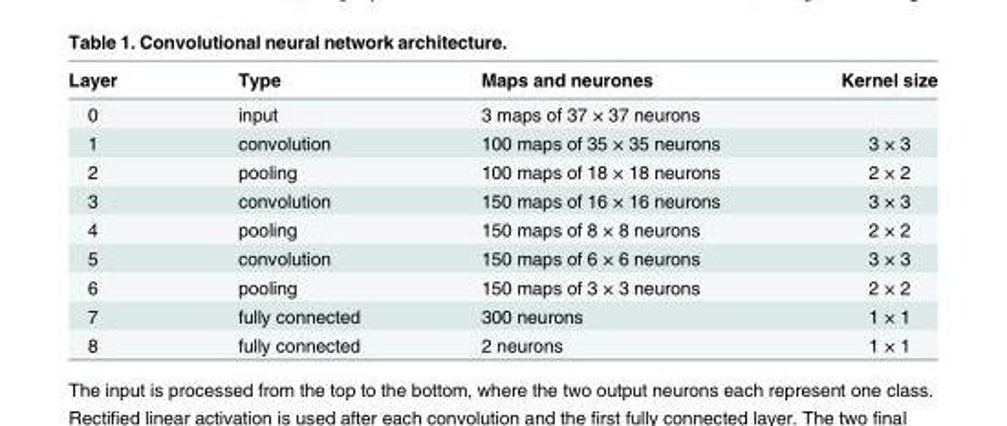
<table><thead><tr><td>Layer</td><td>Type</td><td>Maps and neurones</td><td>Kernel size</td></tr></thead><tbody><tr><td>0</td><td>input</td><td>3 maps of 37 × 37 neurons</td><td></td></tr><tr><td>1</td><td>convolution</td><td>100 maps of 35 × 35 neurons</td><td>3 × 3</td></tr><tr><td>2</td><td>pooling</td><td>100 maps of 18 × 18 neurons</td><td>2 × 2</td></tr><tr><td>3</td><td>convolution</td><td>150 maps of 16 × 16 neurons</td><td>3 × 3</td></tr><tr><td>4</td><td>pooling</td><td>150 maps of 8 × 8 neurons</td><td>2 × 2</td></tr><tr><td>5</td><td>convolution</td><td>150 maps of 6 × 6 neurons</td><td>3 × 3</td></tr><tr><td>6</td><td>pooling</td><td>150 maps of 3 × 3 neurons</td><td>2 × 2</td></tr><tr><td>7</td><td>fully connected</td><td>300 neurons</td><td>1 × 1</td></tr><tr><td>8</td><td>fully connected</td><td>2 neurons</td><td>1 × 1</td></tr></tbody></table>